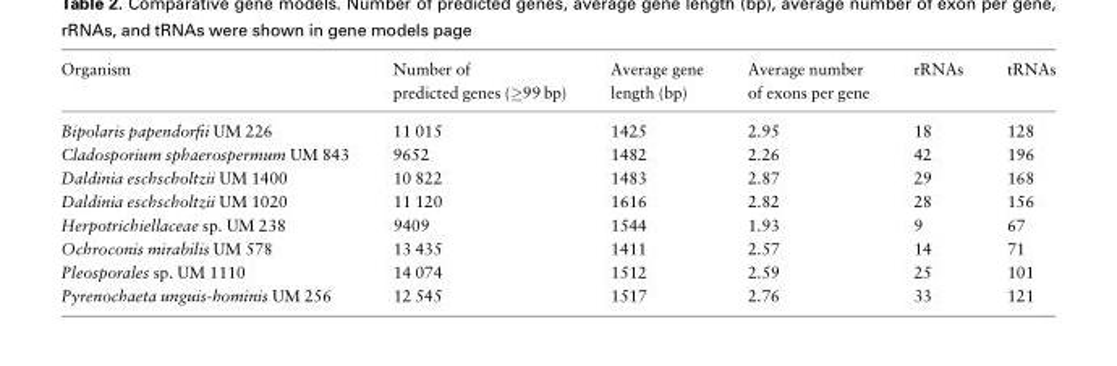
<table><thead><tr><td>Organism</td><td>Number of predicted genes (≥99 bp)</td><td>Average gene length (bp)</td><td>Average number of exons per gene</td><td>rRNAs</td><td>tRNAs</td></tr></thead><tbody><tr><td>Bipolaris papendorfii UM 226</td><td>11 015</td><td>1425</td><td>2.95</td><td>18</td><td>128</td></tr><tr><td>Cladosporium sphaerospermum UM 843</td><td>9652</td><td>1482</td><td>2.26</td><td>42</td><td>196</td></tr><tr><td>Daldinia eschscholtzii UM 1400</td><td>10 822</td><td>1483</td><td>2.87</td><td>29</td><td>168</td></tr><tr><td>Daldinia eschscholtzii UM 1020</td><td>11 120</td><td>1616</td><td>2.82</td><td>28</td><td>156</td></tr><tr><td>Herpotrichiellaceae sp. UM 238</td><td>9409</td><td>1544</td><td>1.93</td><td>9</td><td>67</td></tr><tr><td>Ochroconis mirabilis UM 578</td><td>13 435</td><td>1411</td><td>2.57</td><td>14</td><td>71</td></tr><tr><td>Pleosporales sp. UM 1110</td><td>14 074</td><td>1512</td><td>2.59</td><td>25</td><td>101</td></tr><tr><td>Pyrenochaeta unguis-hominis UM 256</td><td>12 545</td><td>1517</td><td>2.76</td><td>33</td><td>121</td></tr></tbody></table>